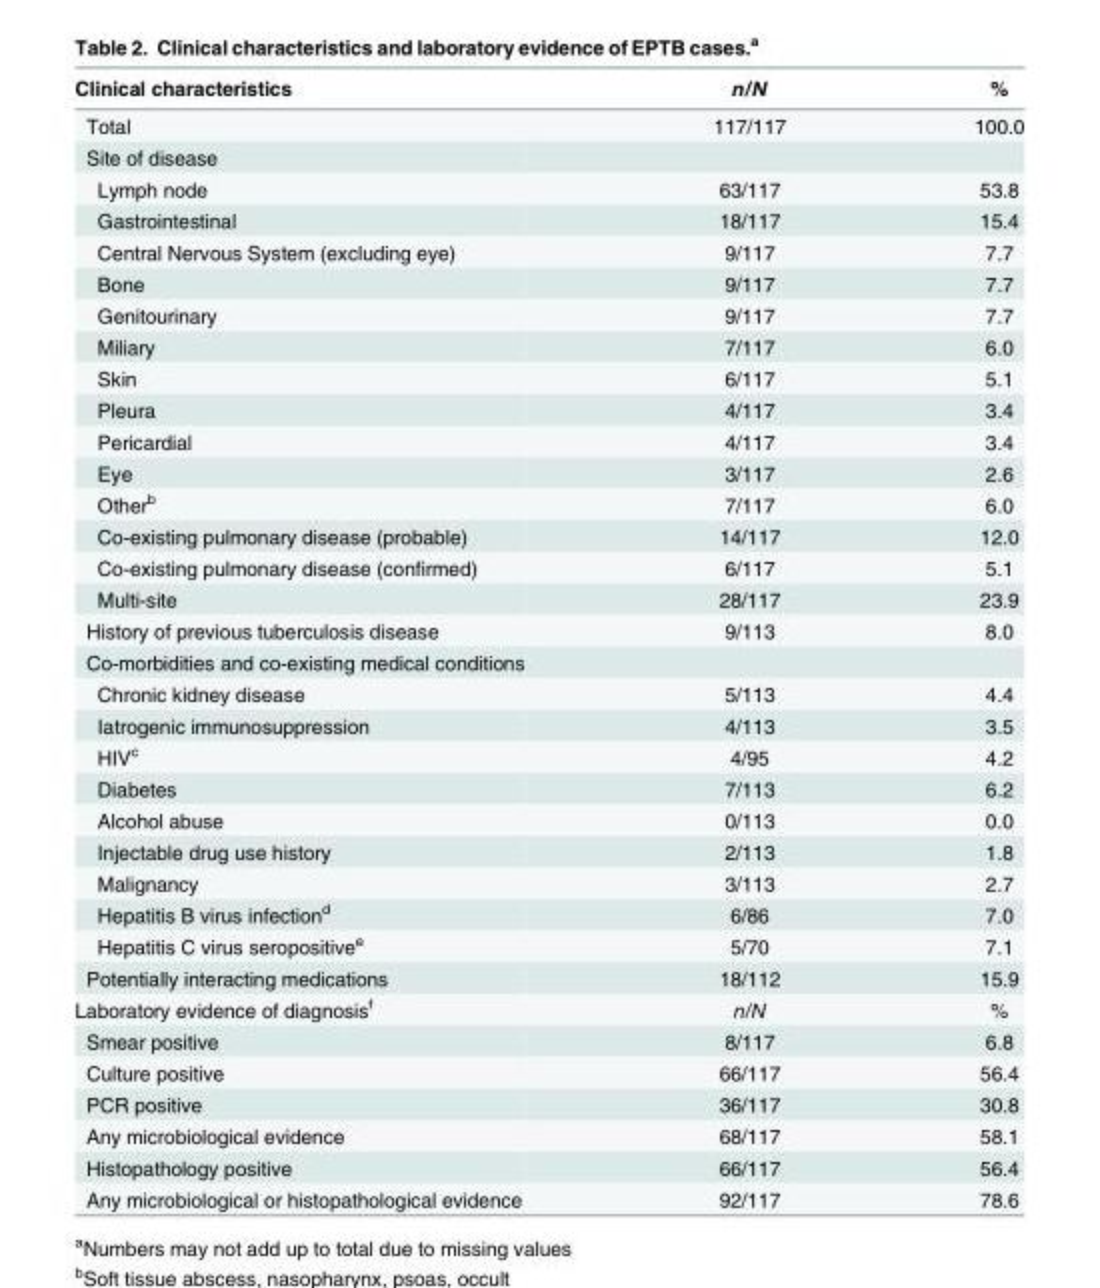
<table><thead><tr><td>Clinical characteristics</td><td>n/N</td><td>%</td></tr></thead><tbody><tr><td>Total</td><td>117/117</td><td>100.0</td></tr><tr><td colspan="3">Site of disease</td></tr><tr><td>Lymph node</td><td>63/117</td><td>53.8</td></tr><tr><td>Gastrointestinal</td><td>18/117</td><td>15.4</td></tr><tr><td>Central Nervous System (excluding eye)</td><td>9/117</td><td>7.7</td></tr><tr><td>Bone</td><td>9/117</td><td>7.7</td></tr><tr><td>Genitourinary</td><td>9/117</td><td>7.7</td></tr><tr><td>Miliary</td><td>7/117</td><td>6.0</td></tr><tr><td>Skin</td><td>6/117</td><td>5.1</td></tr><tr><td>Pleura</td><td>4/117</td><td>3.4</td></tr><tr><td>Pericardial</td><td>4/117</td><td>3.4</td></tr><tr><td>Eye</td><td>3/117</td><td>2.6</td></tr><tr><td>Other<sup>b</sup></td><td>7/117</td><td>6.0</td></tr><tr><td>Co-existing pulmonary disease (probable)</td><td>14/117</td><td>12.0</td></tr><tr><td>Co-existing pulmonary disease (confirmed)</td><td>6/117</td><td>5.1</td></tr><tr><td>Multi-site</td><td>28/117</td><td>23.9</td></tr><tr><td>History of previous tuberculosis disease</td><td>9/113</td><td>8.0</td></tr><tr><td colspan="3">Co-morbidities and co-existing medical conditions</td></tr><tr><td>Chronic kidney disease</td><td>5/113</td><td>4.4</td></tr><tr><td>Iatrogenic immunosuppression</td><td>4/113</td><td>3.5</td></tr><tr><td>HIV<sup>c</sup></td><td>4/95</td><td>4.2</td></tr><tr><td>Diabetes</td><td>7/113</td><td>6.2</td></tr><tr><td>Alcohol abuse</td><td>0/113</td><td>0.0</td></tr><tr><td>Injectable drug use history</td><td>2/113</td><td>1.8</td></tr><tr><td>Malignancy</td><td>3/113</td><td>2.7</td></tr><tr><td>Hepatitis B virus infection<sup>d</sup></td><td>6/86</td><td>7.0</td></tr><tr><td>Hepatitis C virus seropositive<sup>e</sup></td><td>5/70</td><td>7.1</td></tr><tr><td>Potentially interacting medications</td><td>18/112</td><td>15.9</td></tr><tr><td>Laboratory evidence of diagnosis<sup>f</sup></td><td>n/N</td><td>%</td></tr><tr><td>Smear positive</td><td>8/117</td><td>6.8</td></tr><tr><td>Culture positive</td><td>66/117</td><td>56.4</td></tr><tr><td>PCR positive</td><td>36/117</td><td>30.8</td></tr><tr><td>Any microbiological evidence</td><td>68/117</td><td>58.1</td></tr><tr><td>Histopathology positive</td><td>66/117</td><td>56.4</td></tr><tr><td>Any microbiological or histopathological evidence</td><td>92/117</td><td>78.6</td></tr></tbody></table>